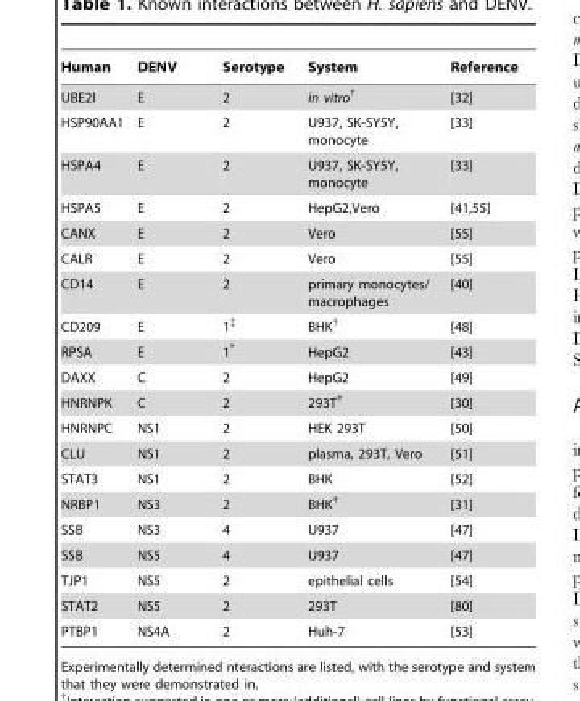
<table><thead><tr><td>Human</td><td>DENV</td><td>Serotype</td><td>System</td><td>Reference</td></tr></thead><tbody><tr><td>UBE2I</td><td>E</td><td>2</td><td>in vitro†</td><td>[32]</td></tr><tr><td>HSP90AA1</td><td>E</td><td>2</td><td>U937, SK-SY5Y, monocyte</td><td>[33]</td></tr><tr><td>HSPA4</td><td>E</td><td>2</td><td>U937, SK-SY5Y, monocyte</td><td>[33]</td></tr><tr><td>HSPA5</td><td>E</td><td>2</td><td>HepG2,Vero</td><td>[41,55]</td></tr><tr><td>CANX</td><td>E</td><td>2</td><td>Vero</td><td>[55]</td></tr><tr><td>CALR</td><td>E</td><td>2</td><td>Vero</td><td>[55]</td></tr><tr><td>CD14</td><td>E</td><td>2</td><td>primary monocytes/ macrophages</td><td>[40]</td></tr><tr><td>CD209</td><td>E</td><td>1‡</td><td>BHK†</td><td>[48]</td></tr><tr><td>RPSA</td><td>E</td><td>1*</td><td>HepG2</td><td>[43]</td></tr><tr><td>DAXX</td><td>C</td><td>2</td><td>HepG2</td><td>[49]</td></tr><tr><td>HNRNPK</td><td>C</td><td>2</td><td>293T†</td><td>[30]</td></tr><tr><td>HNRNPC</td><td>NS1</td><td>2</td><td>HEK 293T</td><td>[50]</td></tr><tr><td>CLU</td><td>NS1</td><td>2</td><td>plasma, 293T, Vero</td><td>[51]</td></tr><tr><td>STAT3</td><td>NS1</td><td>2</td><td>BHK</td><td>[52]</td></tr><tr><td>NRBP1</td><td>NS3</td><td>2</td><td>BHK†</td><td>[31]</td></tr><tr><td>SSB</td><td>NS3</td><td>4</td><td>U937</td><td>[47]</td></tr><tr><td>SSB</td><td>NS5</td><td>4</td><td>U937</td><td>[47]</td></tr><tr><td>TJP1</td><td>NS5</td><td>2</td><td>epithelial cells</td><td>[54]</td></tr><tr><td>STAT2</td><td>NS5</td><td>2</td><td>293T</td><td>[80]</td></tr><tr><td>PTBP1</td><td>NS4A</td><td>2</td><td>Huh-7</td><td>[53]</td></tr></tbody></table>